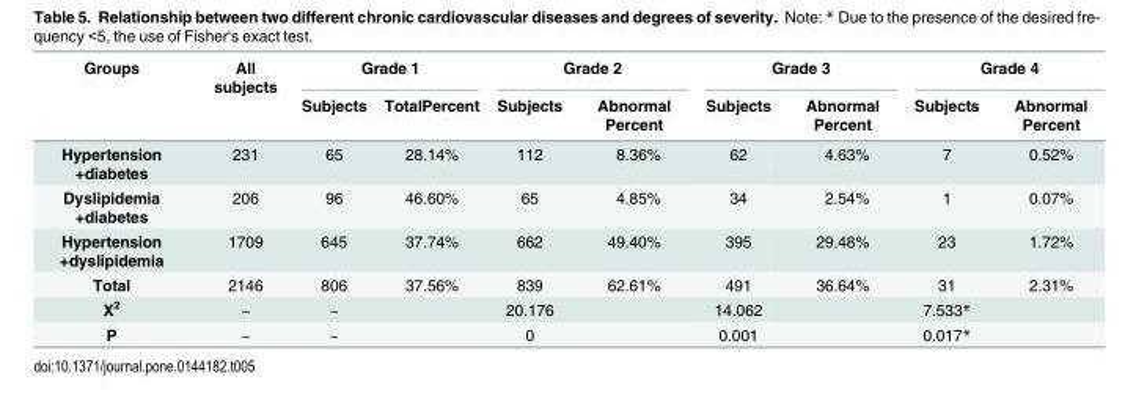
<table><thead><tr><td rowspan="2">Groups</td><td rowspan="2">All subjects</td><td colspan="2">Grade 1</td><td colspan="2">Grade 2</td><td colspan="2">Grade 3</td><td colspan="2">Grade 4</td></tr><tr><td>Subjects</td><td>TotalPercent</td><td>Subjects</td><td>Abnormal Percent</td><td>Subjects</td><td>Abnormal Percent</td><td>Subjects</td><td>Abnormal Percent</td></tr></thead><tbody><tr><td>Hypertension +diabetes</td><td>231</td><td>65</td><td>28.14%</td><td>112</td><td>8.36%</td><td>62</td><td>4.63%</td><td>7</td><td>0.52%</td></tr><tr><td>Dyslipidemia +diabetes</td><td>206</td><td>96</td><td>46.60%</td><td>65</td><td>4.85%</td><td>34</td><td>2.54%</td><td>1</td><td>0.07%</td></tr><tr><td>Hypertension +dyslipidemia</td><td>1709</td><td>645</td><td>37.74%</td><td>662</td><td>49.40%</td><td>395</td><td>29.48%</td><td>23</td><td>1.72%</td></tr><tr><td>Total</td><td>2146</td><td>806</td><td>37.56%</td><td>839</td><td>62.61%</td><td>491</td><td>36.64%</td><td>31</td><td>2.31%</td></tr><tr><td>X<sup>2</sup></td><td>~</td><td>~</td><td></td><td>20.176</td><td></td><td>14.062</td><td></td><td>7.533*</td><td></td></tr><tr><td>P</td><td>~</td><td>~</td><td></td><td>0</td><td></td><td>0.001</td><td></td><td>0.017*</td><td></td></tr></tbody></table>